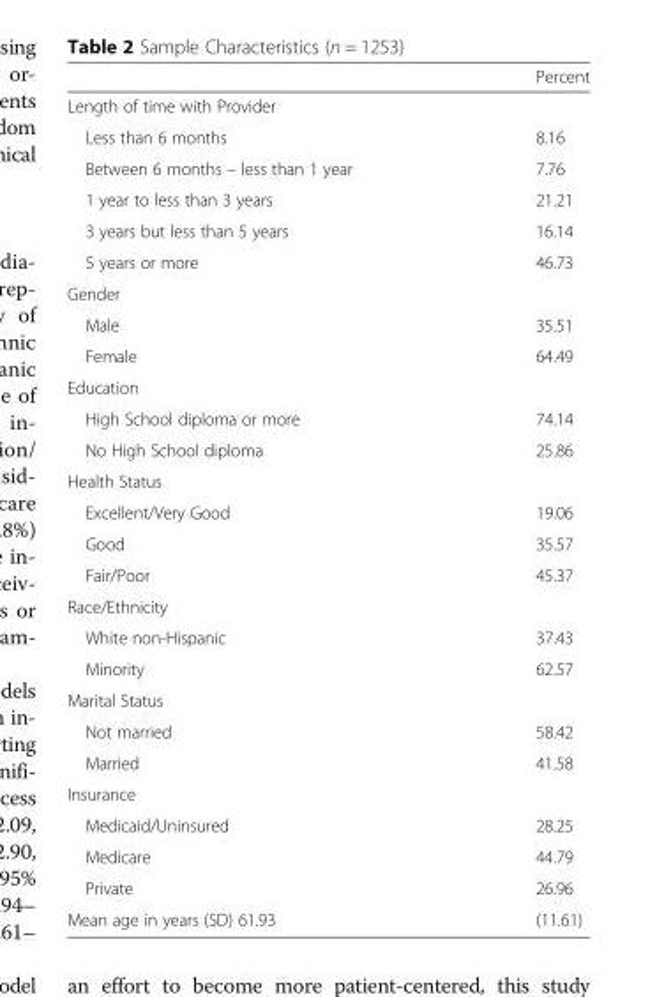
<table><thead><tr><td></td><td>Percent</td></tr></thead><tbody><tr><td colspan="2">Length of time with Provider</td></tr><tr><td>Less than 6 months</td><td>8.16</td></tr><tr><td>Between 6 months – less than 1 year</td><td>7.76</td></tr><tr><td>1 year to less than 3 years</td><td>21.21</td></tr><tr><td>3 years but less than 5 years</td><td>16.14</td></tr><tr><td>5 years or more</td><td>46.73</td></tr><tr><td colspan="2">Gender</td></tr><tr><td>Male</td><td>35.51</td></tr><tr><td>Female</td><td>64.49</td></tr><tr><td colspan="2">Education</td></tr><tr><td>High School diploma or more</td><td>74.14</td></tr><tr><td>No High School diploma</td><td>25.86</td></tr><tr><td colspan="2">Health Status</td></tr><tr><td>Excellent/Very Good</td><td>19.06</td></tr><tr><td>Good</td><td>35.57</td></tr><tr><td>Fair/Poor</td><td>45.37</td></tr><tr><td colspan="2">Race/Ethnicity</td></tr><tr><td>White non-Hispanic</td><td>37.43</td></tr><tr><td>Minority</td><td>62.57</td></tr><tr><td colspan="2">Marital Status</td></tr><tr><td>Not married</td><td>58.42</td></tr><tr><td>Married</td><td>41.58</td></tr><tr><td colspan="2">Insurance</td></tr><tr><td>Medicaid/Uninsured</td><td>28.25</td></tr><tr><td>Medicare</td><td>44.79</td></tr><tr><td>Private</td><td>26.96</td></tr><tr><td>Mean age in years (SD) 61.93</td><td>(11.61)</td></tr></tbody></table>